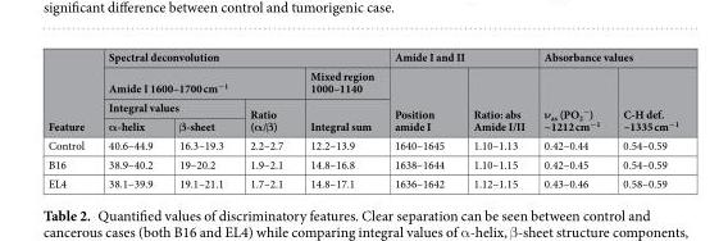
<table><thead><tr><td rowspan="4">Feature</td><td colspan="4">Spectral deconvolution</td><td colspan="2">Amide I and II</td><td colspan="2">Absorbance values</td></tr><tr><td colspan="3">Amide I 1600–1700 cm<sup>−1</sup></td><td rowspan="3">Mixed region 1000–1140 Integral sum</td><td rowspan="3">Position amide I</td><td rowspan="3">Ratio: abs Amide I/II</td><td rowspan="3">ν<sub>as</sub> (PO<sub>2</sub> <sup>−</sup>) ~1212 cm<sup>−1</sup></td><td rowspan="3">C-H def. ~1335 cm<sup>−1</sup></td></tr><tr><td colspan="2">Integral values</td><td rowspan="2">Ratio (α/β)</td></tr><tr><td>α-helix</td><td>β-sheet</td></tr></thead><tbody><tr><td>Control</td><td>40.6–44.9</td><td>16.3–19.3</td><td>2.2–2.7</td><td>12.2–13.9</td><td>1640–1645</td><td>1.10–1.13</td><td>0.42–0.44</td><td>0.54–0.59</td></tr><tr><td>B16</td><td>38.9–40.2</td><td>19–20.2</td><td>1.9–2.1</td><td>14.8–16.8</td><td>1638–1644</td><td>1.10–1.15</td><td>0.42–0.45</td><td>0.54–0.59</td></tr><tr><td>EL4</td><td>38.1–39.9</td><td>19.1–21.1</td><td>1.7–2.1</td><td>14.8–17.1</td><td>1636–1642</td><td>1.12–1.15</td><td>0.43–0.46</td><td>0.58–0.59</td></tr></tbody></table>